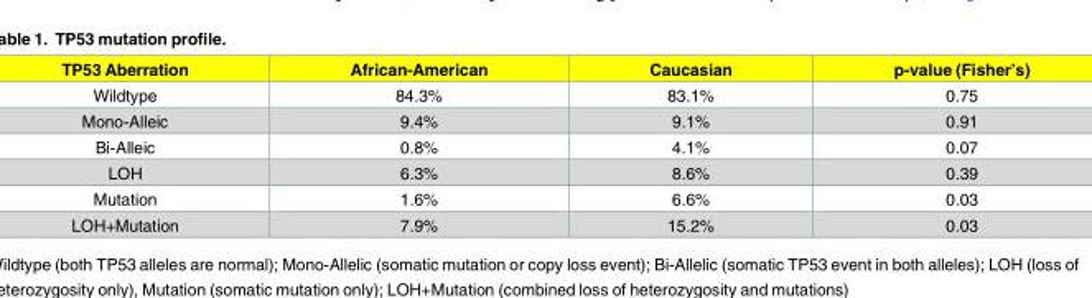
<table><thead><tr><td>TP53 Aberration</td><td>African-American</td><td>Caucasian</td><td>p-value (Fisher’s)</td></tr></thead><tbody><tr><td>Wildtype</td><td>84.3%</td><td>83.1%</td><td>0.75</td></tr><tr><td>Mono-Alleic</td><td>9.4%</td><td>9.1%</td><td>0.91</td></tr><tr><td>Bi-Alleic</td><td>0.8%</td><td>4.1%</td><td>0.07</td></tr><tr><td>LOH</td><td>6.3%</td><td>8.6%</td><td>0.39</td></tr><tr><td>Mutation</td><td>1.6%</td><td>6.6%</td><td>0.03</td></tr><tr><td>LOH+Mutation</td><td>7.9%</td><td>15.2%</td><td>0.03</td></tr></tbody></table>